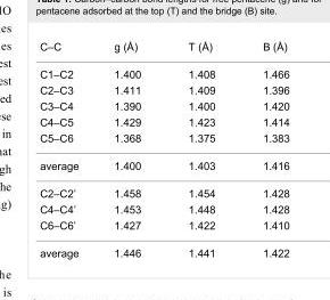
<table><tbody><tr><td>C–C</td><td>g (Å)</td><td>T (Å)</td><td>B (Å)</td></tr><tr><td>C1–C2</td><td>1.400</td><td>1.408</td><td>1.466</td></tr><tr><td>C2–C3</td><td>1.411</td><td>1.409</td><td>1.396</td></tr><tr><td>C3–C4</td><td>1.390</td><td>1.400</td><td>1.420</td></tr><tr><td>C4–C5</td><td>1.429</td><td>1.423</td><td>1.414</td></tr><tr><td>C5–C6</td><td>1.368</td><td>1.375</td><td>1.383</td></tr><tr><td>average</td><td>1.400</td><td>1.403</td><td>1.416</td></tr><tr><td>C2–C2’</td><td>1.458</td><td>1.454</td><td>1.428</td></tr><tr><td>C4–C4’</td><td>1.453</td><td>1.448</td><td>1.428</td></tr><tr><td>C6–C6’</td><td>1.427</td><td>1.422</td><td>1.410</td></tr><tr><td>average</td><td>1.446</td><td>1.441</td><td>1.422</td></tr></tbody></table>